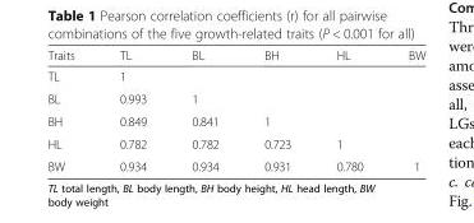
<table><thead><tr><td>Traits</td><td>TL</td><td>BL</td><td>BH</td><td>HL</td><td>BW</td></tr></thead><tbody><tr><td>TL</td><td>1</td><td></td><td></td><td></td><td></td></tr><tr><td>BL</td><td>0.993</td><td>1</td><td></td><td></td><td></td></tr><tr><td>BH</td><td>0.849</td><td>0.841</td><td>1</td><td></td><td></td></tr><tr><td>HL</td><td>0.782</td><td>0.782</td><td>0.723</td><td>1</td><td></td></tr><tr><td>BW</td><td>0.934</td><td>0.934</td><td>0.931</td><td>0.780</td><td>1</td></tr></tbody></table>